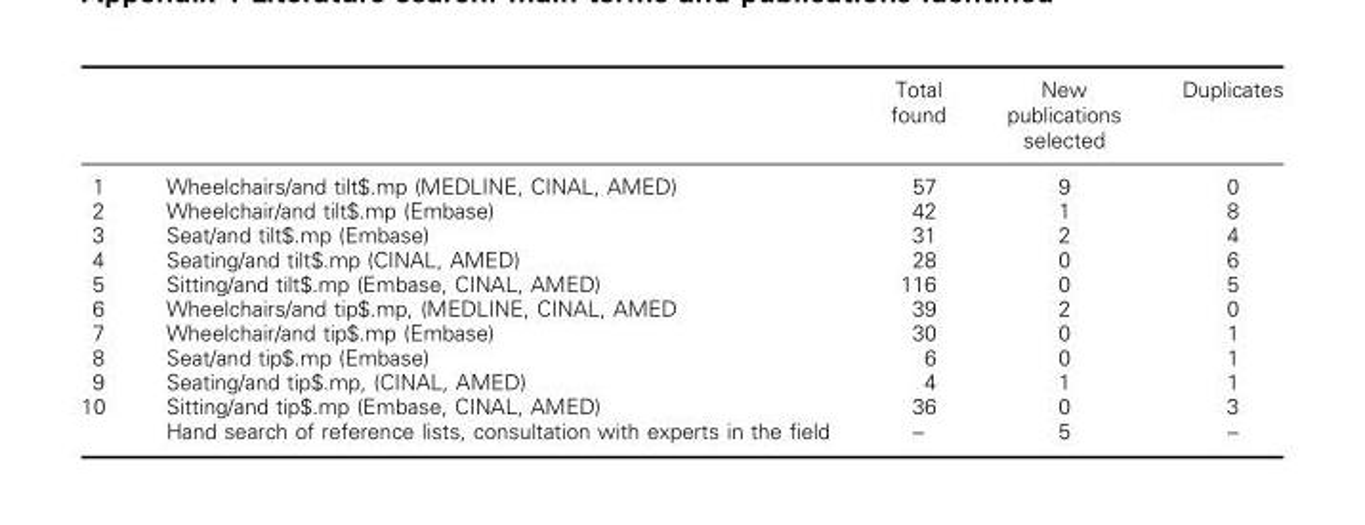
<table><thead><tr><td></td><td></td><td>Total found</td><td>New publications selected</td><td>Duplicates</td></tr></thead><tbody><tr><td>1</td><td>Wheelchairs/and tilt$.mp (MEDLINE, CINAL, AMED)</td><td>57</td><td>9</td><td>0</td></tr><tr><td>2</td><td>Wheelchair/and tilt$.mp (Embase)</td><td>42</td><td>1</td><td>8</td></tr><tr><td>3</td><td>Seat/and tilt$.mp (Embase)</td><td>31</td><td>2</td><td>4</td></tr><tr><td>4</td><td>Seating/and tilt$.mp (CINAL, AMED)</td><td>28</td><td>0</td><td>6</td></tr><tr><td>5</td><td>Sitting/and tilt$.mp (Embase, CINAL, AMED)</td><td>116</td><td>0</td><td>5</td></tr><tr><td>6</td><td>Wheelchairs/and tip$.mp, (MEDLINE, CINAL, AMED</td><td>39</td><td>2</td><td>0</td></tr><tr><td>7</td><td>Wheelchair/and tip$.mp (Embase)</td><td>30</td><td>0</td><td>1</td></tr><tr><td>8</td><td>Seat/and tip$.mp (Embase)</td><td>6</td><td>0</td><td>1</td></tr><tr><td>9</td><td>Seating/and tip$.mp, (CINAL, AMED)</td><td>4</td><td>1</td><td>1</td></tr><tr><td rowspan="2">10</td><td>Sitting/and tip$.mp (Embase, CINAL, AMED)</td><td>36</td><td>0</td><td>3</td></tr><tr><td>Hand search of reference lists, consultation with experts in the field</td><td>–</td><td>5</td><td>–</td></tr></tbody></table>